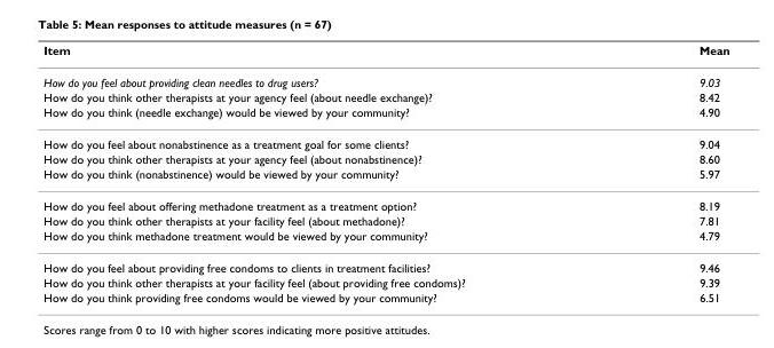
<table><thead><tr><td>Item</td><td>Mean</td></tr></thead><tbody><tr><td>How do you feel about providing clean needles to drug users?</td><td>9.03</td></tr><tr><td>How do you think other therapists at your agency feel (about needle exchange)?</td><td>8.42</td></tr><tr><td>How do you think (needle exchange) would be viewed by your community?</td><td>4.90</td></tr><tr><td>How do you feel about nonabstinence as a treatment goal for some clients?</td><td>9.04</td></tr><tr><td>How do you think other therapists at your agency feel (about nonabstinence)?</td><td>8.60</td></tr><tr><td>How do you think (nonabstinence) would be viewed by your community?</td><td>5.97</td></tr><tr><td>How do you feel about offering methadone treatment as a treatment option?</td><td>8.19</td></tr><tr><td>How do you think other therapists at your facility feel (about methadone)?</td><td>7.81</td></tr><tr><td>How do you think methadone treatment would be viewed by your community?</td><td>4.79</td></tr><tr><td>How do you feel about providing free condoms to clients in treatment facilities?</td><td>9.46</td></tr><tr><td>How do you think other therapists at your facility feel (about providing free condoms)?</td><td>9.39</td></tr><tr><td>How do you think providing free condoms would be viewed by your community?</td><td>6.51</td></tr></tbody></table>